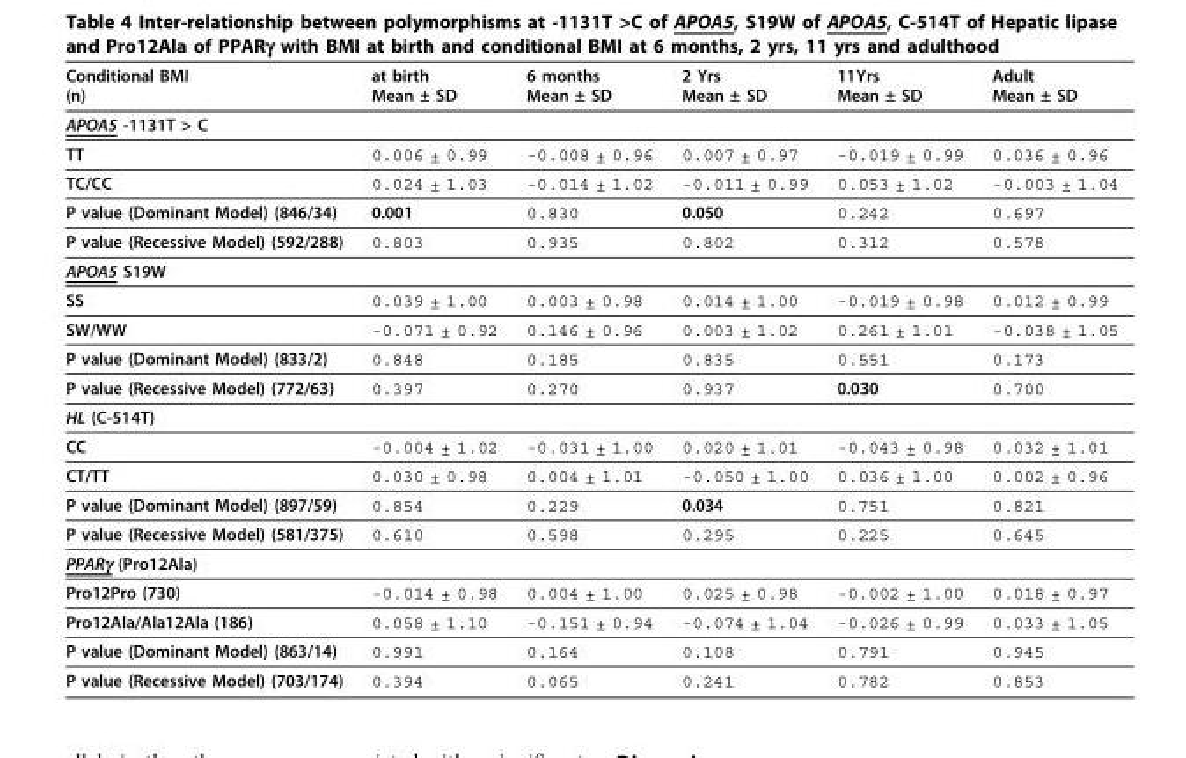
<table><thead><tr><td>Conditional BMI (n)</td><td>at birth Mean ± SD</td><td>6 months Mean ± SD</td><td>2 Yrs Mean ± SD</td><td>11Yrs Mean ± SD</td><td>Adult Mean ± SD</td></tr></thead><tbody><tr><td colspan="6">APOA5 -1131T &gt; C</td></tr><tr><td>TT</td><td>0.006 ± 0.99</td><td>-0.008 ± 0.96</td><td>0.007 ± 0.97</td><td>-0.019 ± 0.99</td><td>0.036 ± 0.96</td></tr><tr><td>TC/CC</td><td>0.024 ± 1.03</td><td>-0.014 ± 1.02</td><td>-0.011 ± 0.99</td><td>0.053 ± 1.02</td><td>-0.003 ± 1.04</td></tr><tr><td>P value (Dominant Model) (846/34)</td><td>0.001</td><td>0.830</td><td>0.050</td><td>0.242</td><td>0.697</td></tr><tr><td>P value (Recessive Model) (592/288)</td><td>0.803</td><td>0.935</td><td>0.802</td><td>0.312</td><td>0.578</td></tr><tr><td colspan="6">APOA5 S19W</td></tr><tr><td>SS</td><td>0.039 ± 1.00</td><td>0.003 ± 0.98</td><td>0.014 ± 1.00</td><td>-0.019 ± 0.98</td><td>0.012 ± 0.99</td></tr><tr><td>SW/WW</td><td>-0.071 ± 0.92</td><td>0.146 ± 0.96</td><td>0.003 ± 1.02</td><td>0.261 ± 1.01</td><td>-0.038 ± 1.05</td></tr><tr><td>P value (Dominant Model) (833/2)</td><td>0.848</td><td>0.185</td><td>0.835</td><td>0.551</td><td>0.173</td></tr><tr><td>P value (Recessive Model) (772/63)</td><td>0.397</td><td>0.270</td><td>0.937</td><td>0.030</td><td>0.700</td></tr><tr><td colspan="6">HL (C-514T)</td></tr><tr><td>CC</td><td>-0.004 ± 1.02</td><td>-0.031 ± 1.00</td><td>0.020 ± 1.01</td><td>-0.043 ± 0.98</td><td>0.032 ± 1.01</td></tr><tr><td>CT/TT</td><td>0.030 ± 0.98</td><td>0.004 ± 1.01</td><td>-0.050 ± 1.00</td><td>0.036 ± 1.00</td><td>0.002 ± 0.96</td></tr><tr><td>P value (Dominant Model) (897/59)</td><td>0.854</td><td>0.229</td><td>0.034</td><td>0.751</td><td>0.821</td></tr><tr><td>P value (Recessive Model) (581/375)</td><td>0.610</td><td>0.598</td><td>0.295</td><td>0.225</td><td>0.645</td></tr><tr><td colspan="6">PPARγ (Pro12Ala)</td></tr><tr><td>Pro12Pro (730)</td><td>-0.014 ± 0.98</td><td>0.004 ± 1.00</td><td>0.025 ± 0.98</td><td>-0.002 ± 1.00</td><td>0.018 ± 0.97</td></tr><tr><td>Pro12Ala/Ala12Ala (186)</td><td>0.058 ± 1.10</td><td>-0.151 ± 0.94</td><td>-0.074 ± 1.04</td><td>-0.026 ± 0.99</td><td>0.033 ± 1.05</td></tr><tr><td>P value (Dominant Model) (863/14)</td><td>0.991</td><td>0.164</td><td>0.108</td><td>0.791</td><td>0.945</td></tr><tr><td>P value (Recessive Model) (703/174)</td><td>0.394</td><td>0.065</td><td>0.241</td><td>0.782</td><td>0.853</td></tr></tbody></table>